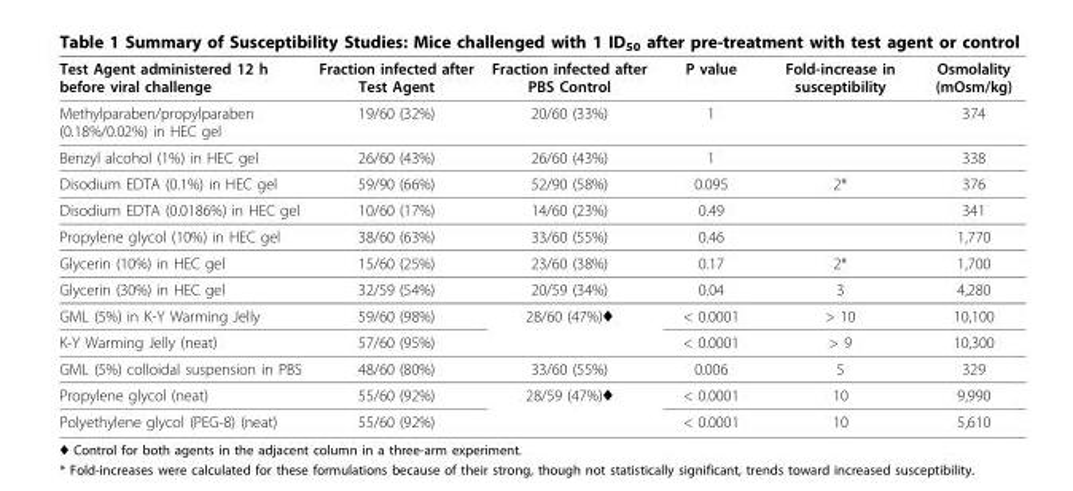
<table><thead><tr><td>Test Agent administered 12 h before viral challenge</td><td>Fraction infected after Test Agent</td><td>Fraction infected after PBS Control</td><td>P value</td><td>Fold-increase in susceptibility</td><td>Osmolality (mOsm/kg)</td></tr></thead><tbody><tr><td>Methylparaben/propylparaben (0.18%/0.02%) in HEC gel</td><td>19/60 (32%)</td><td>20/60 (33%)</td><td>1</td><td></td><td>374</td></tr><tr><td>Benzyl alcohol (1%) in HEC gel</td><td>26/60 (43%)</td><td>26/60 (43%)</td><td>1</td><td></td><td>338</td></tr><tr><td>Disodium EDTA (0.1%) in HEC gel</td><td>59/90 (66%)</td><td>52/90 (58%)</td><td>0.095</td><td>2*</td><td>376</td></tr><tr><td>Disodium EDTA (0.0186%) in HEC gel</td><td>10/60 (17%)</td><td>14/60 (23%)</td><td>0.49</td><td></td><td>341</td></tr><tr><td>Propylene glycol (10%) in HEC gel</td><td>38/60 (63%)</td><td>33/60 (55%)</td><td>0.46</td><td></td><td>1,770</td></tr><tr><td>Glycerin (10%) in HEC gel</td><td>15/60 (25%)</td><td>23/60 (38%)</td><td>0.17</td><td>2*</td><td>1,700</td></tr><tr><td>Glycerin (30%) in HEC gel</td><td>32/59 (54%)</td><td>20/59 (34%)</td><td>0.04</td><td>3</td><td>4,280</td></tr><tr><td>GML (5%) in K-Y Warming Jelly</td><td>59/60 (98%)</td><td>28/60 (47%)♦</td><td>&lt; 0.0001</td><td>&gt; 10</td><td>10,100</td></tr><tr><td>K-Y Warming Jelly (neat)</td><td>57/60 (95%)</td><td></td><td>&lt; 0.0001</td><td>&gt; 9</td><td>10,300</td></tr><tr><td>GML (5%) colloidal suspension in PBS</td><td>48/60 (80%)</td><td>33/60 (55%)</td><td>0.006</td><td>5</td><td>329</td></tr><tr><td>Propylene glycol (neat)</td><td>55/60 (92%)</td><td>28/59 (47%)♦</td><td>&lt; 0.0001</td><td>10</td><td>9,990</td></tr><tr><td>Polyethylene glycol (PEG-8) (neat)</td><td>55/60 (92%)</td><td></td><td>&lt; 0.0001</td><td>10</td><td>5,610</td></tr></tbody></table>